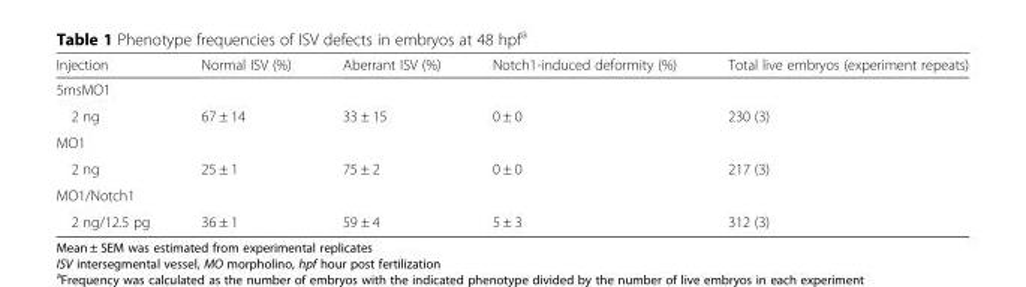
<table><thead><tr><td>Injection</td><td>Normal ISV (%)</td><td>Aberrant ISV (%)</td><td>Notch1-induced deformity (%)</td><td>Total live embryos (experiment repeats)</td></tr></thead><tbody><tr><td colspan="5">5msMO1</td></tr><tr><td>2 ng</td><td>67 ± 14</td><td>33 ± 15</td><td>0 ± 0</td><td>230 (3)</td></tr><tr><td colspan="5">MO1</td></tr><tr><td>2 ng</td><td>25 ± 1</td><td>75 ± 2</td><td>0 ± 0</td><td>217 (3)</td></tr><tr><td colspan="5">MO1/Notch1</td></tr><tr><td>2 ng/12.5 pg</td><td>36 ± 1</td><td>59 ± 4</td><td>5 ± 3</td><td>312 (3)</td></tr></tbody></table>